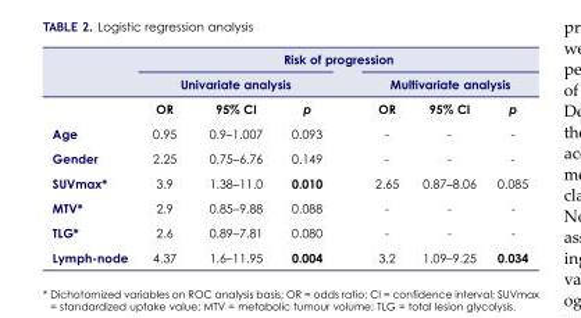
<table><thead><tr><td rowspan="3"></td><td colspan="6">Risk of progression</td></tr><tr><td colspan="3">Univariate analysis</td><td colspan="3">Multivariate analysis</td></tr><tr><td>OR</td><td>95% CI</td><td>p</td><td>OR</td><td>95% CI</td><td>p</td></tr></thead><tbody><tr><td>Age</td><td>0.95</td><td>0.9–1.007</td><td>0.093</td><td>-</td><td>-</td><td>-</td></tr><tr><td>Gender</td><td>2.25</td><td>0.75–6.76</td><td>0.149</td><td>-</td><td>-</td><td>-</td></tr><tr><td>SUVmax*</td><td>3.9</td><td>1.38–11.0</td><td>0.010</td><td>2.65</td><td>0.87–8.06</td><td>0.085</td></tr><tr><td>MTV*</td><td>2.9</td><td>0.85–9.88</td><td>0.088</td><td>-</td><td>-</td><td>-</td></tr><tr><td>TLG*</td><td>2.6</td><td>0.89–7.81</td><td>0.080</td><td>-</td><td>-</td><td>-</td></tr><tr><td>Lymph-node</td><td>4.37</td><td>1.6–11.95</td><td>0.004</td><td>3.2</td><td>1.09–9.25</td><td>0.034</td></tr></tbody></table>